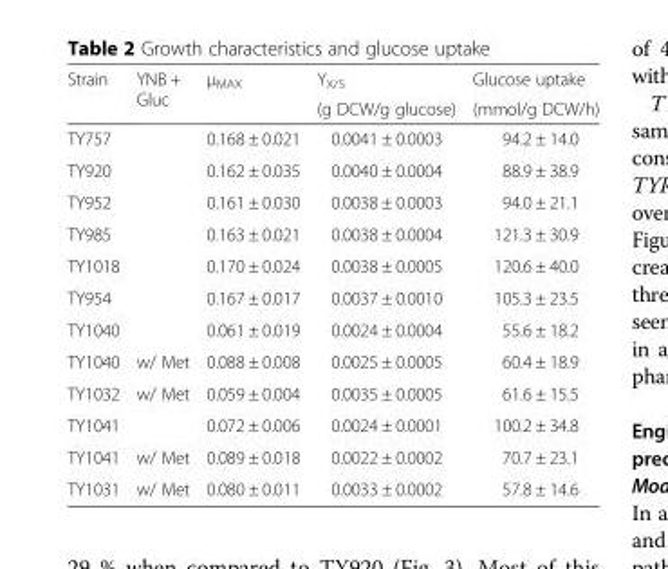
<table><thead><tr><td rowspan="2">Strain</td><td rowspan="2">YNB + Gluc</td><td rowspan="2">μ<sub>MAX</sub></td><td rowspan="2">Y<sub>X/S</sub> (g DCW/g glucose)</td><td rowspan="2">Glucose uptake (mmol/g DCW/h)</td></tr><tr></tr></thead><tbody><tr><td>TY757</td><td></td><td>0.168 ± 0.021</td><td>0.0041 ± 0.0003</td><td>94.2 ± 14.0</td></tr><tr><td>TY920</td><td></td><td>0.162 ± 0.035</td><td>0.0040 ± 0.0004</td><td>88.9 ± 38.9</td></tr><tr><td>TY952</td><td></td><td>0.161 ± 0.030</td><td>0.0038 ± 0.0003</td><td>94.0 ± 21.1</td></tr><tr><td>TY985</td><td></td><td>0.163 ± 0.021</td><td>0.0038 ± 0.0004</td><td>121.3 ± 30.9</td></tr><tr><td>TY1018</td><td></td><td>0.170 ± 0.024</td><td>0.0038 ± 0.0005</td><td>120.6 ± 40.0</td></tr><tr><td>TY954</td><td></td><td>0.167 ± 0.017</td><td>0.0037 ± 0.0010</td><td>105.3 ± 23.5</td></tr><tr><td>TY1040</td><td></td><td>0.061 ± 0.019</td><td>0.0024 ± 0.0004</td><td>55.6 ± 18.2</td></tr><tr><td>TY1040</td><td>w/ Met</td><td>0.088 ± 0.008</td><td>0.0025 ± 0.0005</td><td>60.4 ± 18.9</td></tr><tr><td>TY1032</td><td>w/ Met</td><td>0.059 ± 0.004</td><td>0.0035 ± 0.0005</td><td>61.6 ± 15.5</td></tr><tr><td>TY1041</td><td></td><td>0.072 ± 0.006</td><td>0.0024 ± 0.0001</td><td>100.2 ± 34.8</td></tr><tr><td>TY1041</td><td>w/ Met</td><td>0.089 ± 0.018</td><td>0.0022 ± 0.0002</td><td>70.7 ± 23.1</td></tr><tr><td>TY1031</td><td>w/ Met</td><td>0.080 ± 0.011</td><td>0.0033 ± 0.0002</td><td>57.8 ± 14.6</td></tr></tbody></table>